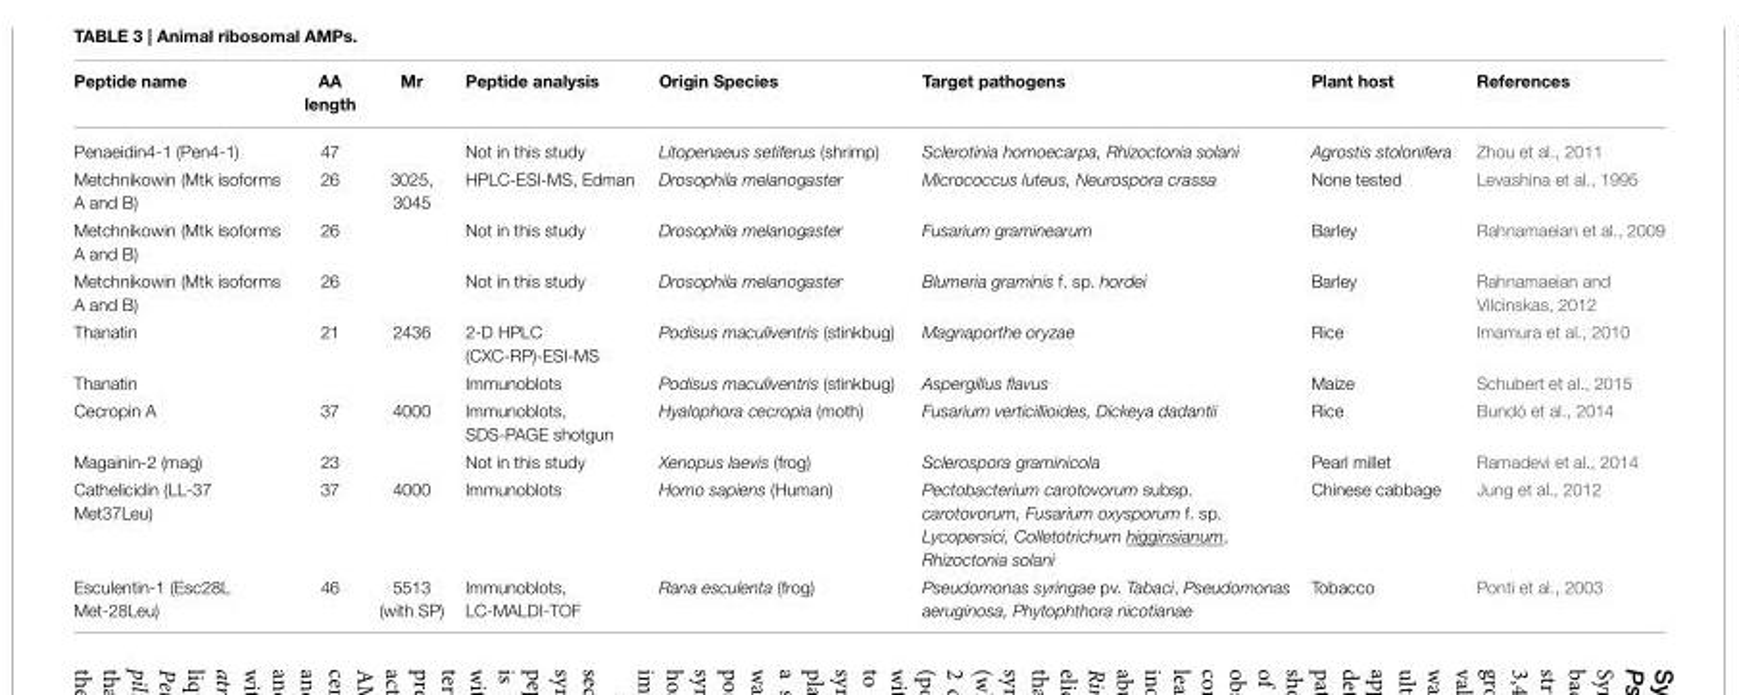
<table><thead><tr><td>Peptide name</td><td>AA length</td><td>Mr</td><td>Peptide analysis</td><td>Origin Species</td><td>Target pathogens</td><td>Plant host</td><td>References</td></tr></thead><tbody><tr><td>Penaeidin4-1 (Pen4-1)</td><td>47</td><td></td><td>Not in this study</td><td>Litopenaeus setiferus (shrimp)</td><td>Sclerotinia homoecarpa, Rhizoctonia solani</td><td>Agrostis stolonifera</td><td>Zhou et al., 2011</td></tr><tr><td>Metchnikowin (Mtk isoforms A and B)</td><td>26</td><td>3025, 3045</td><td>HPLC-ESI-MS, Edman</td><td>Drosophila melanogaster</td><td>Micrococcus luteus, Neurospora crassa</td><td>None tested</td><td>Levashina et al., 1995</td></tr><tr><td>Metchnikowin (Mtk isoforms A and B)</td><td>26</td><td></td><td>Not in this study</td><td>Drosophila melanogaster</td><td>Fusarium graminearum</td><td>Barley</td><td>Rahnamaeian et al., 2009</td></tr><tr><td>Metchnikowin (Mtk isoforms A and B)</td><td>26</td><td></td><td>Not in this study</td><td>Drosophila melanogaster</td><td>Blumeria graminis f. sp. hordei</td><td>Barley</td><td>Rahnamaeian and Vilcinskas, 2012</td></tr><tr><td>Thanatin</td><td>21</td><td>2436</td><td>2-D HPLC (CXC-RP)-ESI-MS</td><td>Podisus maculiventris (stinkbug)</td><td>Magnaporthe oryzae</td><td>Rice</td><td>Imamura et al., 2010</td></tr><tr><td>Thanatin</td><td></td><td></td><td>Immunoblots</td><td>Podisus maculiventris (stinkbug)</td><td>Aspergillus flavus</td><td>Maize</td><td>Schubert et al., 2015</td></tr><tr><td>Cecropin A</td><td>37</td><td>4000</td><td>Immunoblots, SDS-PAGE shotgun</td><td>Hyalophora cecropia (moth)</td><td>Fusarium verticillioides, Dickeya dadantii</td><td>Rice</td><td>Bundó et al., 2014</td></tr><tr><td>Magainin-2 (mag)</td><td>23</td><td></td><td>Not in this study</td><td>Xenopus laevis (frog)</td><td>Sclerospora graminicola</td><td>Pearl millet</td><td>Ramadevi et al., 2014</td></tr><tr><td>Cathelicidin (LL-37 Met37Leu)</td><td>37</td><td>4000</td><td>Immunoblots</td><td>Homo sapiens (Human)</td><td>Pectobacterium carotovorum subsp. carotovorum, Fusarium oxysporum f. sp. Lycopersici, Colletotrichum higginsianum, Rhizoctonia solani</td><td>Chinese cabbage</td><td>Jung et al., 2012</td></tr><tr><td>Esculentin-1 (Esc28L Met-28Leu)</td><td>46</td><td>5513 (with SP)</td><td>Immunoblots, LC-MALDI-TOF</td><td>Rana esculenta (frog)</td><td>Pseudomonas syringae pv. Tabaci, Pseudomonas aeruginosa, Phytophthora nicotianae</td><td>Tobacco</td><td>Ponti et al., 2003</td></tr></tbody></table>